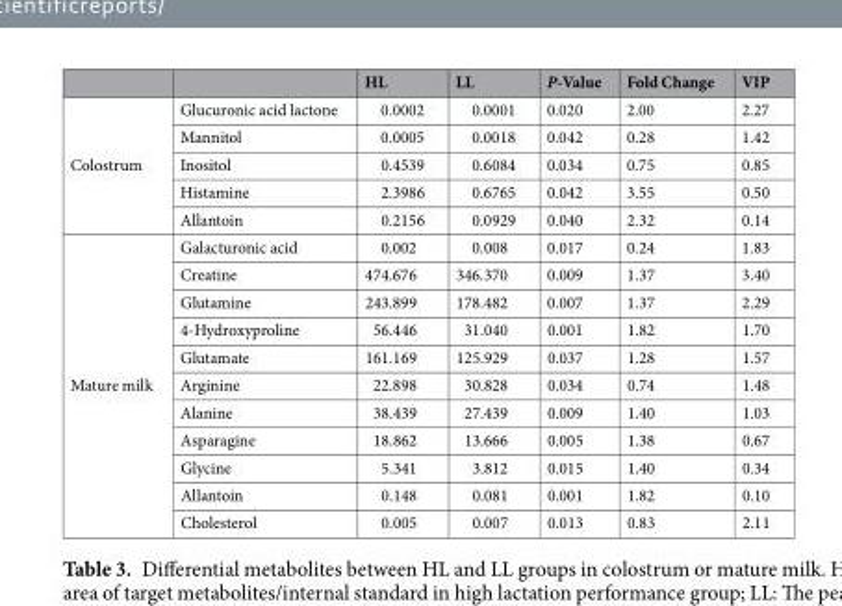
<table><thead><tr><td></td><td></td><td>HL</td><td>LL</td><td>P-Value</td><td>Fold Change</td><td>VIP</td></tr></thead><tbody><tr><td rowspan="5">Colostrum</td><td>Glucuronic acid lactone</td><td>0.0002</td><td>0.0001</td><td>0.020</td><td>2.00</td><td>2.27</td></tr><tr><td>Mannitol</td><td>0.0005</td><td>0.0018</td><td>0.042</td><td>0.28</td><td>1.42</td></tr><tr><td>Inositol</td><td>0.4539</td><td>0.6084</td><td>0.034</td><td>0.75</td><td>0.85</td></tr><tr><td>Histamine</td><td>2.3986</td><td>0.6765</td><td>0.042</td><td>3.55</td><td>0.50</td></tr><tr><td>Allantoin</td><td>0.2156</td><td>0.0929</td><td>0.040</td><td>2.32</td><td>0.14</td></tr><tr><td rowspan="11">Mature milk</td><td>Galacturonic acid</td><td>0.002</td><td>0.008</td><td>0.017</td><td>0.24</td><td>1.83</td></tr><tr><td>Creatine</td><td>474.676</td><td>346.370</td><td>0.009</td><td>1.37</td><td>3.40</td></tr><tr><td>Glutamine</td><td>243.899</td><td>178.482</td><td>0.007</td><td>1.37</td><td>2.29</td></tr><tr><td>4-Hydroxyproline</td><td>56.446</td><td>31.040</td><td>0.001</td><td>1.82</td><td>1.70</td></tr><tr><td>Glutamate</td><td>161.169</td><td>125.929</td><td>0.037</td><td>1.28</td><td>1.57</td></tr><tr><td>Arginine</td><td>22.898</td><td>30.828</td><td>0.034</td><td>0.74</td><td>1.48</td></tr><tr><td>Alanine</td><td>38.439</td><td>27.439</td><td>0.009</td><td>1.40</td><td>1.03</td></tr><tr><td>Asparagine</td><td>18.862</td><td>13.666</td><td>0.005</td><td>1.38</td><td>0.67</td></tr><tr><td>Glycine</td><td>5.341</td><td>3.812</td><td>0.015</td><td>1.40</td><td>0.34</td></tr><tr><td>Allantoin</td><td>0.148</td><td>0.081</td><td>0.001</td><td>1.82</td><td>0.10</td></tr><tr><td>Cholesterol</td><td>0.005</td><td>0.007</td><td>0.013</td><td>0.83</td><td>2.11</td></tr></tbody></table>